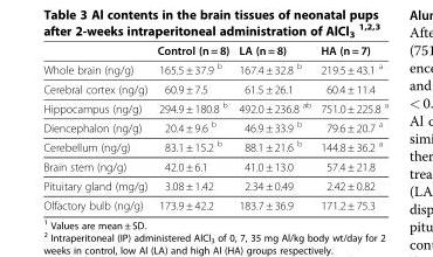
<table><thead><tr><td></td><td>Control (n = 8)</td><td>LA (n = 8)</td><td>HA (n = 7)</td></tr></thead><tbody><tr><td>Whole brain (ng/g)</td><td>165.5 ± 37.9 <sup>b</sup></td><td>167.4 ± 32.8 <sup>b</sup></td><td>219.5 ± 43.1 <sup>a</sup></td></tr><tr><td>Cerebral cortex (ng/g)</td><td>60.9 ± 7.5</td><td>61.5 ± 26.1</td><td>60.4 ± 11.4</td></tr><tr><td>Hippocampus (ng/g)</td><td>294.9 ± 180.8 <sup>b</sup></td><td>492.0 ± 236.8 <sup>ab</sup></td><td>751.0 ± 225.8 <sup>a</sup></td></tr><tr><td>Diencephalon (ng/g)</td><td>20.4 ± 9.6 <sup>b</sup></td><td>46.9 ± 33.9 <sup>b</sup></td><td>79.6 ± 20.7 <sup>a</sup></td></tr><tr><td>Cerebellum (ng/g)</td><td>83.1 ± 15.2 <sup>b</sup></td><td>88.1 ± 21.6 <sup>b</sup></td><td>144.8 ± 36.2 <sup>a</sup></td></tr><tr><td>Brain stem (ng/g)</td><td>42.0 ± 6.1</td><td>41.0 ± 13.0</td><td>57.4 ± 21.8</td></tr><tr><td>Pituitary gland (mg/g)</td><td>3.08 ± 1.42</td><td>2.34 ± 0.49</td><td>2.42 ± 0.82</td></tr><tr><td>Olfactory bulb (ng/g)</td><td>173.9 ± 42.2</td><td>183.7 ± 36.9</td><td>171.2 ± 75.3</td></tr></tbody></table>